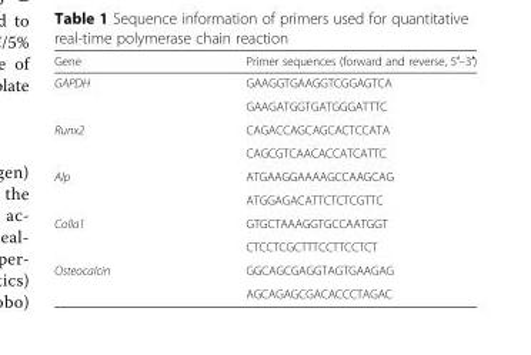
<table><thead><tr><td>Gene</td><td>Primer sequences (forward and reverse, 5′–3′)</td></tr></thead><tbody><tr><td rowspan="2">GAPDH</td><td>GAAGGTGAAGGTCGGAGTCA</td></tr><tr><td>GAAGATGGTGATGGGATTTC</td></tr><tr><td rowspan="2">Runx2</td><td>CAGACCAGCAGCACTCCATA</td></tr><tr><td>CAGCGTCAACACCATCATTC</td></tr><tr><td rowspan="2">Alp</td><td>ATGAAGGAAAAGCCAAGCAG</td></tr><tr><td>ATGGAGACATTCTCTCGTTC</td></tr><tr><td rowspan="2">ColIa1</td><td>GTGCTAAAGGTGCCAATGGT</td></tr><tr><td>CTCCTCGCTTTCCTTCCTCT</td></tr><tr><td rowspan="2">Osteocalcin</td><td>GGCAGCGAGGTAGTGAAGAG</td></tr><tr><td>AGCAGAGCGACACCCTAGAC</td></tr></tbody></table>